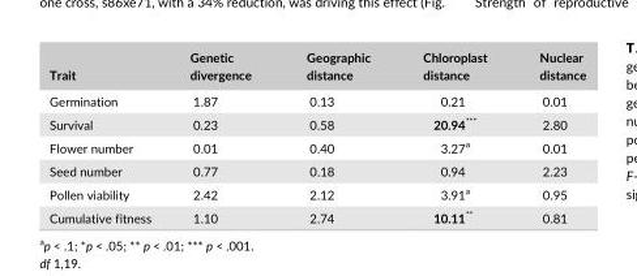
<table><thead><tr><td>Trait</td><td>Genetic divergence</td><td>Geographic distance</td><td>Chloroplast distance</td><td>Nuclear distance</td></tr></thead><tbody><tr><td>Germination</td><td>1.87</td><td>0.13</td><td>0.21</td><td>0.01</td></tr><tr><td>Survival</td><td>0.23</td><td>0.58</td><td>20.94***</td><td>2.80</td></tr><tr><td>Flower number</td><td>0.01</td><td>0.40</td><td>3.27<sup>a</sup></td><td>0.01</td></tr><tr><td>Seed number</td><td>0.77</td><td>0.18</td><td>0.94</td><td>2.23</td></tr><tr><td>Pollen viability</td><td>2.42</td><td>2.12</td><td>3.91<sup>a</sup></td><td>0.95</td></tr><tr><td>Cumulative fitness</td><td>1.10</td><td>2.74</td><td>10.11**</td><td>0.81</td></tr></tbody></table>